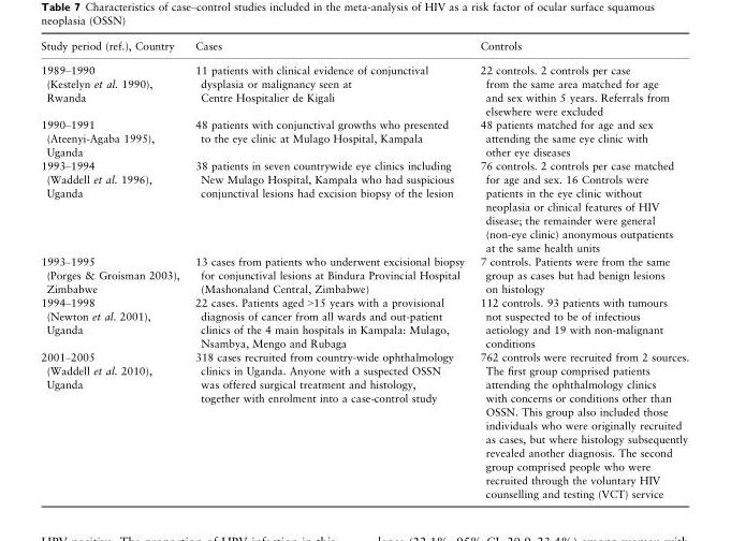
<table><thead><tr><td>Study period (ref.), Country</td><td>Cases</td><td>Controls</td></tr></thead><tbody><tr><td>1989–1990 (Kestelyn et al. 1990), Rwanda</td><td>11 patients with clinical evidence of conjunctival dysplasia or malignancy seen at Centre Hospitalier de Kigali</td><td>22 controls. 2 controls per case from the same area matched for age and sex within 5 years. Referrals from elsewhere were excluded</td></tr><tr><td>1990–1991 (Ateenyi-Agaba 1995), Uganda</td><td>48 patients with conjunctival growths who presented to the eye clinic at Mulago Hospital, Kampala</td><td>48 patients matched for age and sex attending the same eye clinic with other eye diseases</td></tr><tr><td>1993–1994 (Waddell et al. 1996), Uganda</td><td>38 patients in seven countrywide eye clinics including New Mulago Hospital, Kampala who had suspicious conjunctival lesions had excision biopsy of the lesion</td><td>76 controls. 2 controls per case matched for age and sex. 16 Controls were patients in the eye clinic without neoplasia or clinical features of HIV disease; the remainder were general (non-eye clinic) anonymous outpatients at the same health units</td></tr><tr><td>1993–1995 (Porges &amp; Groisman 2003), Zimbabwe</td><td>13 cases from patients who underwent excisional biopsy for conjunctival lesions at Bindura Provincial Hospital (Mashonaland Central, Zimbabwe)</td><td>7 controls. Patients were from the same group as cases but had benign lesions on histology</td></tr><tr><td>1994–1998 (Newton et al. 2001), Uganda</td><td>22 cases. Patients aged &gt;15 years with a provisional diagnosis of cancer from all wards and out-patient clinics of the 4 main hospitals in Kampala: Mulago, Nsambya, Mengo and Rubaga</td><td>112 controls. 93 patients with tumours not suspected to be of infectious aetiology and 19 with non-malignant conditions</td></tr><tr><td>2001–2005 (Waddell et al. 2010), Uganda</td><td>318 cases recruited from country-wide ophthalmology clinics in Uganda. Anyone with a suspected OSSN was offered surgical treatment and histology, together with enrolment into a case-control study</td><td>762 controls were recruited from 2 sources. The first group comprised patients attending the ophthalmology clinics with concerns or conditions other than OSSN. This group also included those individuals who were originally recruited as cases, but where histology subsequently revealed another diagnosis. The second group comprised people who were recruited through the voluntary HIV counselling and testing (VCT) service</td></tr></tbody></table>